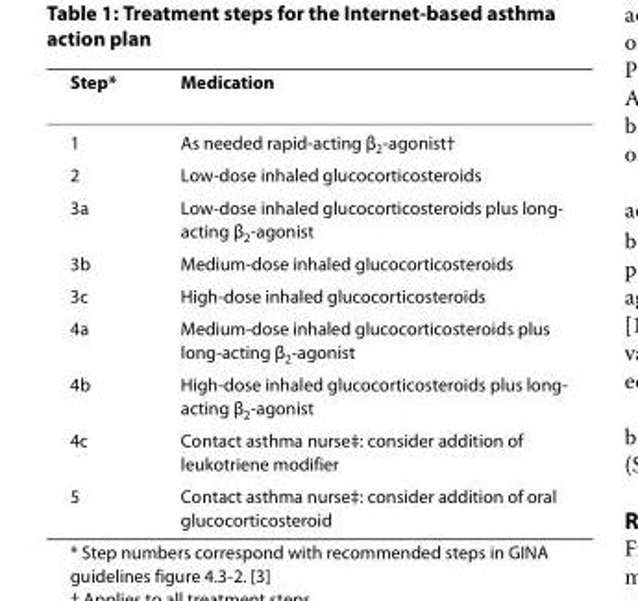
<table><thead><tr><td>Step*</td><td>Medication</td></tr></thead><tbody><tr><td>1</td><td>As needed rapid-acting β<sub>2</sub>-agonist†</td></tr><tr><td>2</td><td>Low-dose inhaled glucocorticosteroids</td></tr><tr><td>3a</td><td>Low-dose inhaled glucocorticosteroids plus long- acting β<sub>2</sub>-agonist</td></tr><tr><td>3b</td><td>Medium-dose inhaled glucocorticosteroids</td></tr><tr><td>3c</td><td>High-dose inhaled glucocorticosteroids</td></tr><tr><td>4a</td><td>Medium-dose inhaled glucocorticosteroids plus long-acting β<sub>2</sub>-agonist</td></tr><tr><td>4b</td><td>High-dose inhaled glucocorticosteroids plus long- acting β<sub>2</sub>-agonist</td></tr><tr><td>4c</td><td>Contact asthma nurse‡: consider addition of leukotriene modifier</td></tr><tr><td>5</td><td>Contact asthma nurse‡: consider addition of oral glucocorticosteroid</td></tr></tbody></table>